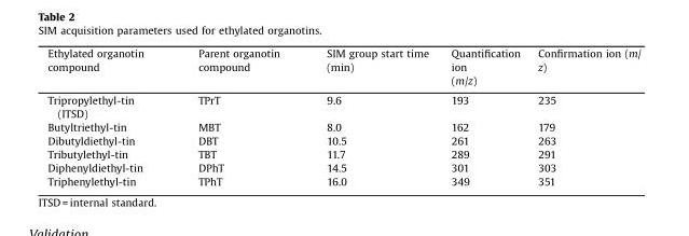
<table><thead><tr><td>Ethylated organotin compound</td><td>Parent organotin compound</td><td>SIM group start time (min)</td><td>Quantification ion (m/z)</td><td>Confirmation ion (m/ z)</td></tr></thead><tbody><tr><td>Tripropylethyl-tin (ITSD)</td><td>TPrT</td><td>9.6</td><td>193</td><td>235</td></tr><tr><td>Butyltriethyl-tin</td><td>MBT</td><td>8.0</td><td>162</td><td>179</td></tr><tr><td>Dibutyldiethyl-tin</td><td>DBT</td><td>10.5</td><td>261</td><td>263</td></tr><tr><td>Tributylethyl-tin</td><td>TBT</td><td>11.7</td><td>289</td><td>291</td></tr><tr><td>Diphenyldiethyl-tin</td><td>DPhT</td><td>14.5</td><td>301</td><td>303</td></tr><tr><td>Triphenylethyl-tin</td><td>TPhT</td><td>16.0</td><td>349</td><td>351</td></tr></tbody></table>